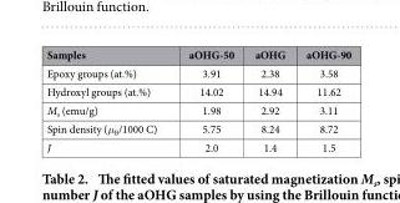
<table><thead><tr><td>Samples</td><td>aOHG-50</td><td>aOHG</td><td>aOHG-90</td></tr></thead><tbody><tr><td>Epoxy groups (at.%)</td><td>3.91</td><td>2.38</td><td>3.58</td></tr><tr><td>Hydroxyl groups (at.%)</td><td>14.02</td><td>14.94</td><td>11.62</td></tr><tr><td>M<sub>s</sub> (emu/g)</td><td>1.98</td><td>2.92</td><td>3.11</td></tr><tr><td>Spin density (μ<sub>B</sub>/1000 C)</td><td>5.75</td><td>8.24</td><td>8.72</td></tr><tr><td>J</td><td>2.0</td><td>1.4</td><td>1.5</td></tr></tbody></table>